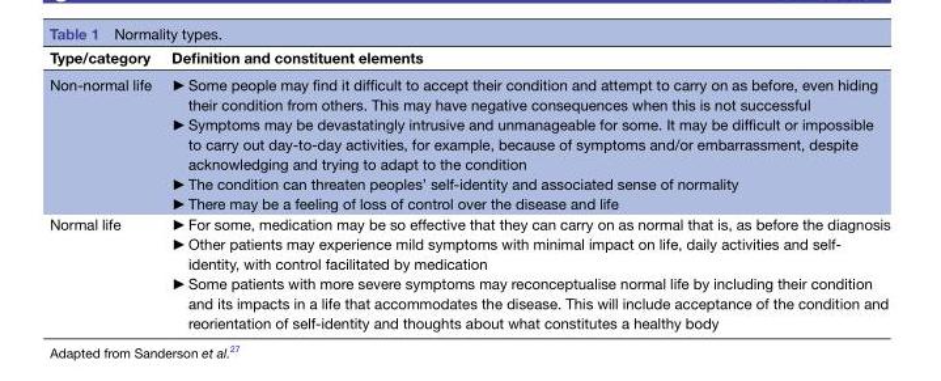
<table><thead><tr><td>Type/category</td><td>Definition and constituent elements</td></tr></thead><tbody><tr><td>Non-normal life</td><td>►Some people may find it difficult to accept their condition and attempt to carry on as before, even hiding their condition from others. This may have negative consequences when this is not successful ►Symptoms may be devastatingly intrusive and unmanageable for some. It may be difficult or impossible to carry out day-to-day activities, for example, because of symptoms and/or embarrassment, despite acknowledging and trying to adapt to the condition ►The condition can threaten peoples’ self-identity and associated sense of normality ►There may be a feeling of loss of control over the disease and life</td></tr><tr><td>Normal life</td><td>►For some, medication may be so effective that they can carry on as normal that is, as before the diagnosis ►Other patients may experience mild symptoms with minimal impact on life, daily activities and self- identity, with control facilitated by medication ►Some patients with more severe symptoms may reconceptualise normal life by including their condition and its impacts in a life that accommodates the disease. This will include acceptance of the condition and reorientation of self-identity and thoughts about what constitutes a healthy body</td></tr></tbody></table>